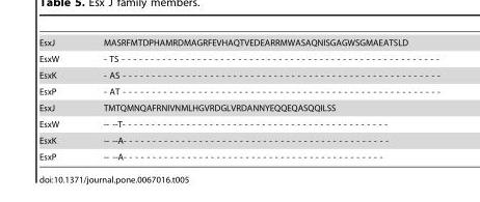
<table><tbody><tr><td>EsxJ</td><td>MASRFMTDPHAMRDMAGRFEVHAQTVEDEARRMWASAQNISGAGWSGMAEATSLD</td></tr><tr><td>EsxW</td><td>- TS - - - - - - - - - - - - - - - - - - - - - - - - - - - - - - - - - - - - - - - - - - - - - - - - - - - - - - -</td></tr><tr><td>EsxK</td><td>- AS - - - - - - - - - - - - - - - - - - - - - - - - - - - - - - - - - - - - - - - - - - - - - - - - - - - - - - -</td></tr><tr><td>EsxP</td><td>- AT - - - - - - - - - - - - - - - - - - - - - - - - - - - - - - - - - - - - - - - - - - - - - - - - - - - - - - -</td></tr><tr><td>EsxJ</td><td>TMTQMNQAFRNIVNMLHGVRDGLVRDANNYEQQEQASQQILSS</td></tr><tr><td>EsxW</td><td>-- --T- - - - - - - - - - - - - - - - - - - - - - - - - - - - - - - - - - - - - - - - - - - - - -</td></tr><tr><td>EsxK</td><td>-- --A- - - - - - - - - - - - - - - - - - - - - - - - - - - - - - - - - - - - - - - - - - - - - -</td></tr><tr><td>EsxP</td><td>-- --A- - - - - - - - - - - - - - - - - - - - - - - - - - - - - - - - - - - - - - - - - - - - -</td></tr></tbody></table>